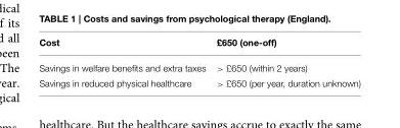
<table><thead><tr><td>Cost</td><td>£650 (one-off)</td></tr></thead><tbody><tr><td>Savings in welfare benefits and extra taxes</td><td>&gt; £650 (within 2 years)</td></tr><tr><td>Savings in reduced physical healthcare</td><td>&gt; £650 (per year, duration unknown)</td></tr></tbody></table>